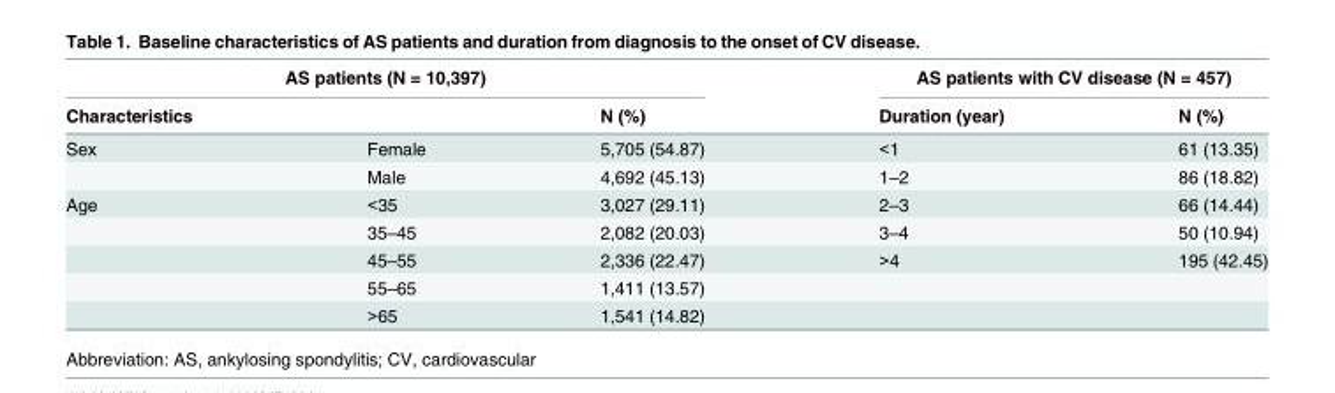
<table><thead><tr><td colspan="3">AS patients (N = 10,397)</td><td colspan="2">AS patients with CV disease (N = 457)</td></tr><tr><td>Characteristics</td><td></td><td>N (%)</td><td>Duration (year)</td><td>N (%)</td></tr></thead><tbody><tr><td rowspan="2">Sex</td><td>Female</td><td>5,705 (54.87)</td><td>&lt;1</td><td>61 (13.35)</td></tr><tr><td>Male</td><td>4,692 (45.13)</td><td>1–2</td><td>86 (18.82)</td></tr><tr><td rowspan="5">Age</td><td>&lt;35</td><td>3,027 (29.11)</td><td>2–3</td><td>66 (14.44)</td></tr><tr><td>35–45</td><td>2,082 (20.03)</td><td>3–4</td><td>50 (10.94)</td></tr><tr><td>45–55</td><td>2,336 (22.47)</td><td>&gt;4</td><td>195 (42.45)</td></tr><tr><td>55–65</td><td>1,411 (13.57)</td><td></td><td></td></tr><tr><td>&gt;65</td><td>1,541 (14.82)</td><td></td><td></td></tr></tbody></table>